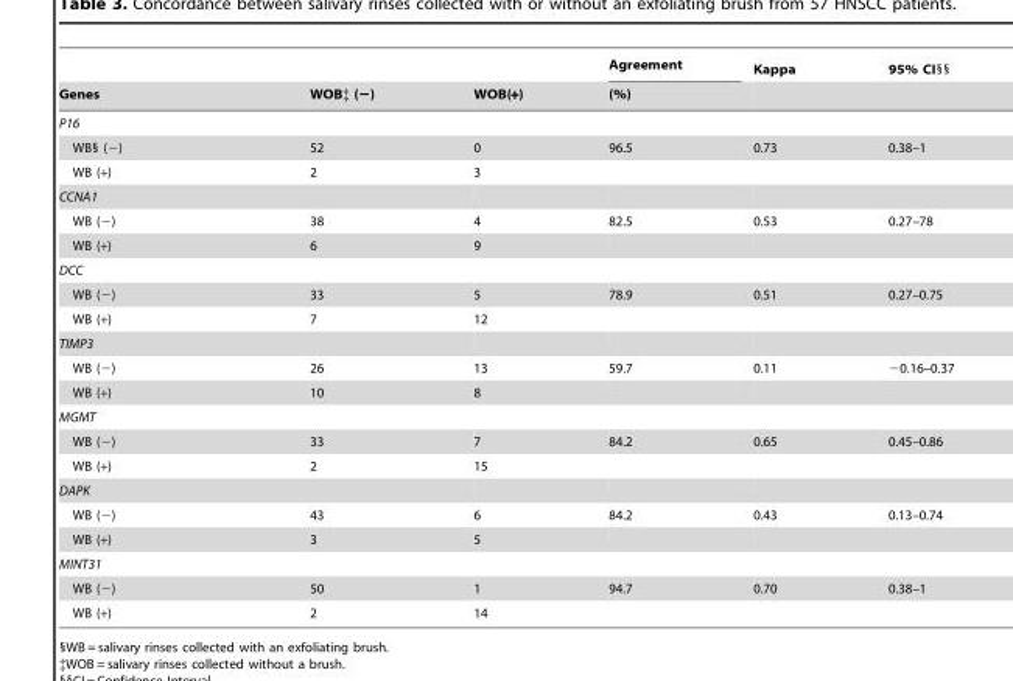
<table><thead><tr><td rowspan="2">Genes</td><td rowspan="2">WOB‡ (−)</td><td rowspan="2">WOB(+)</td><td rowspan="2">Agreement (%)</td><td rowspan="2">Kappa</td><td rowspan="2">95% CI§§</td></tr><tr></tr></thead><tbody><tr><td colspan="6">P16</td></tr><tr><td>WB§ (−)</td><td>52</td><td>0</td><td>96.5</td><td>0.73</td><td>0.38–1</td></tr><tr><td>WB (+)</td><td>2</td><td>3</td><td></td><td></td><td></td></tr><tr><td colspan="6">CCNA1</td></tr><tr><td>WB (−)</td><td>38</td><td>4</td><td>82.5</td><td>0.53</td><td>0.27–78</td></tr><tr><td>WB (+)</td><td>6</td><td>9</td><td></td><td></td><td></td></tr><tr><td colspan="6">DCC</td></tr><tr><td>WB (−)</td><td>33</td><td>5</td><td>78.9</td><td>0.51</td><td>0.27–0.75</td></tr><tr><td>WB (+)</td><td>7</td><td>12</td><td></td><td></td><td></td></tr><tr><td colspan="6">TIMP3</td></tr><tr><td>WB (−)</td><td>26</td><td>13</td><td>59.7</td><td>0.11</td><td>−0.16–0.37</td></tr><tr><td>WB (+)</td><td>10</td><td>8</td><td></td><td></td><td></td></tr><tr><td colspan="6">MGMT</td></tr><tr><td>WB (−)</td><td>33</td><td>7</td><td>84.2</td><td>0.65</td><td>0.45–0.86</td></tr><tr><td>WB (+)</td><td>2</td><td>15</td><td></td><td></td><td></td></tr><tr><td colspan="6">DAPK</td></tr><tr><td>WB (−)</td><td>43</td><td>6</td><td>84.2</td><td>0.43</td><td>0.13–0.74</td></tr><tr><td>WB (+)</td><td>3</td><td>5</td><td></td><td></td><td></td></tr><tr><td colspan="6">MINT31</td></tr><tr><td>WB (−)</td><td>50</td><td>1</td><td>94.7</td><td>0.70</td><td>0.38–1</td></tr><tr><td>WB (+)</td><td>2</td><td>14</td><td></td><td></td><td></td></tr></tbody></table>